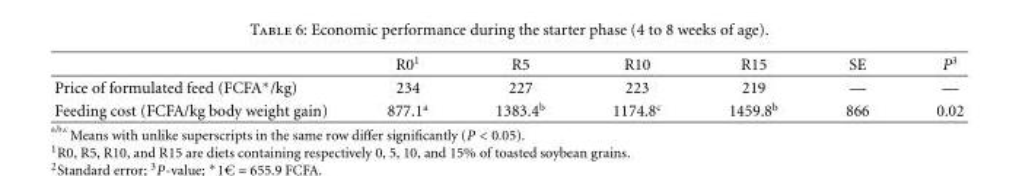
<table><thead><tr><td></td><td>R0<sup>1</sup></td><td>R5</td><td>R10</td><td>R15</td><td>SE</td><td>P<sup>3</sup></td></tr></thead><tbody><tr><td>Price of formulated feed (FCFA∗/kg)</td><td>234</td><td>227</td><td>223</td><td>219</td><td>—</td><td>—</td></tr><tr><td>Feeding cost (FCFA/kg body weight gain)</td><td>877.1<sup>a</sup></td><td>1383.4<sup>b</sup></td><td>1174.8<sup>c</sup></td><td>1459.8<sup>b</sup></td><td>866</td><td>0.02</td></tr></tbody></table>